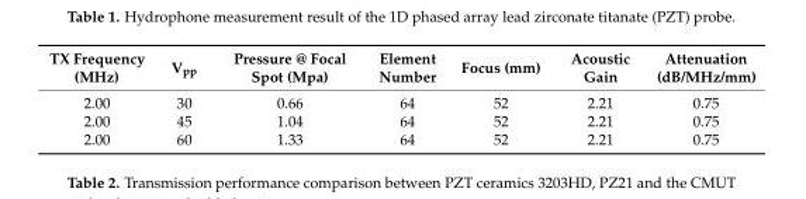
<table><thead><tr><td>TX Frequency (MHz)</td><td>V<sub>pp</sub></td><td>Pressure @ Focal Spot (Mpa)</td><td>Element Number</td><td>Focus (mm)</td><td>Acoustic Gain</td><td>Attenuation (dB/MHz/mm)</td></tr></thead><tbody><tr><td>2.00</td><td>30</td><td>0.66</td><td>64</td><td>52</td><td>2.21</td><td>0.75</td></tr><tr><td>2.00</td><td>45</td><td>1.04</td><td>64</td><td>52</td><td>2.21</td><td>0.75</td></tr><tr><td>2.00</td><td>60</td><td>1.33</td><td>64</td><td>52</td><td>2.21</td><td>0.75</td></tr></tbody></table>